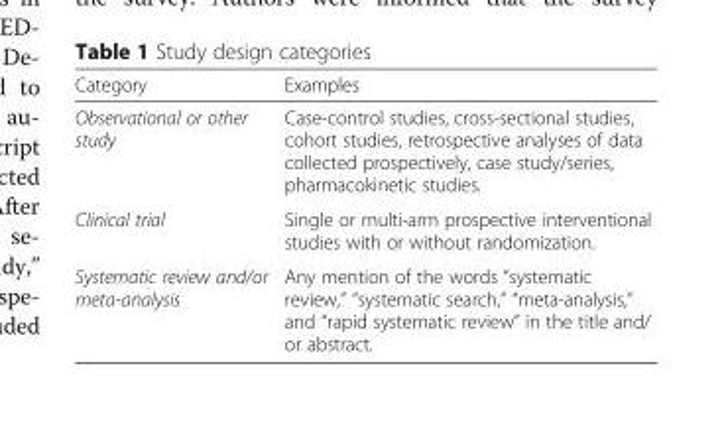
<table><thead><tr><td>Category</td><td>Examples</td></tr></thead><tbody><tr><td>Observational or other study</td><td>Case-control studies, cross-sectional studies, cohort studies, retrospective analyses of data collected prospectively, case study/series, pharmacokinetic studies.</td></tr><tr><td>Clinical trial</td><td>Single or multi-arm prospective interventional studies with or without randomization.</td></tr><tr><td>Systematic review and/or meta-analysis</td><td>Any mention of the words “systematic review,” “systematic search,” “meta-analysis,” and “rapid systematic review” in the title and/ or abstract.</td></tr></tbody></table>